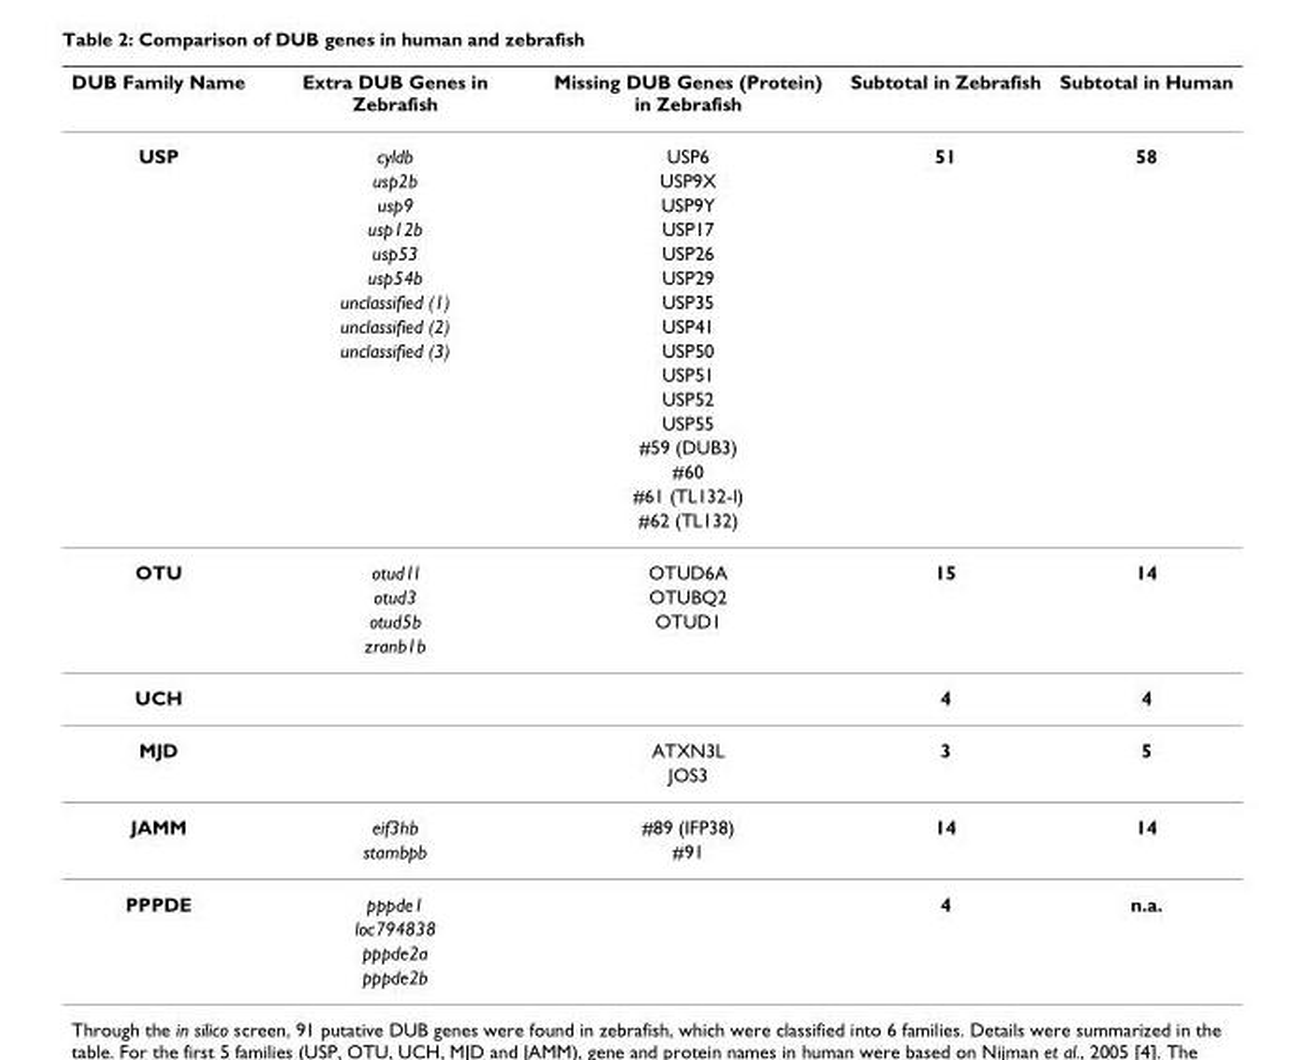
<table><thead><tr><td>DUB Family Name</td><td>Extra DUB Genes in Zebrafish</td><td>Missing DUB Genes (Protein) in Zebrafish</td><td>Subtotal in Zebrafish</td><td>Subtotal in Human</td></tr></thead><tbody><tr><td rowspan="16">USP</td><td>cyldb</td><td>USP6</td><td>51</td><td>58</td></tr><tr><td>usp2b</td><td>USP9X</td><td></td><td></td></tr><tr><td>usp9</td><td>USP9Y</td><td></td><td></td></tr><tr><td>usp12b</td><td>USP17</td><td></td><td></td></tr><tr><td>usp53</td><td>USP26</td><td></td><td></td></tr><tr><td>usp54b</td><td>USP29</td><td></td><td></td></tr><tr><td>unclassified (1)</td><td>USP35</td><td></td><td></td></tr><tr><td>unclassified (2)</td><td>USP41</td><td></td><td></td></tr><tr><td>unclassified (3)</td><td>USP50</td><td></td><td></td></tr><tr><td></td><td>USP51</td><td></td><td></td></tr><tr><td></td><td>USP52</td><td></td><td></td></tr><tr><td></td><td>USP55</td><td></td><td></td></tr><tr><td></td><td>#59 (DUB3)</td><td></td><td></td></tr><tr><td></td><td>#60</td><td></td><td></td></tr><tr><td></td><td>#61 (TL132-l)</td><td></td><td></td></tr><tr><td></td><td>#62 (TL132)</td><td></td><td></td></tr><tr><td rowspan="4">OTU</td><td>otud1l</td><td>OTUD6A</td><td>15</td><td>14</td></tr><tr><td>otud3</td><td>OTUBQ2</td><td></td><td></td></tr><tr><td>otud5b</td><td>OTUD1</td><td></td><td></td></tr><tr><td>zranb1b</td><td></td><td></td><td></td></tr><tr><td>UCH</td><td></td><td></td><td>4</td><td>4</td></tr><tr><td rowspan="2">MJD</td><td></td><td>ATXN3L</td><td>3</td><td>5</td></tr><tr><td></td><td>JOS3</td><td></td><td></td></tr><tr><td rowspan="2">JAMM</td><td>eif3hb</td><td>#89 (IFP38)</td><td>14</td><td>14</td></tr><tr><td>stambpb</td><td>#91</td><td></td><td></td></tr><tr><td rowspan="4">PPPDE</td><td>pppde1</td><td></td><td>4</td><td>n.a.</td></tr><tr><td>loc794838</td><td></td><td></td><td></td></tr><tr><td>pppde2a</td><td></td><td></td><td></td></tr><tr><td>pppde2b</td><td></td><td></td><td></td></tr></tbody></table>